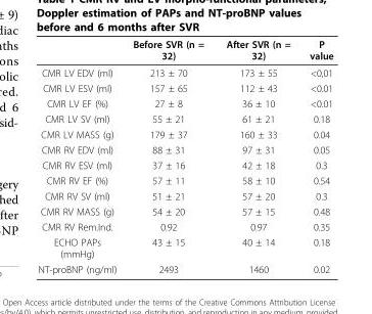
<table><thead><tr><td></td><td>Before SVR (n = 32)</td><td>After SVR (n = 32)</td><td>P value</td></tr></thead><tbody><tr><td>CMR LV EDV (ml)</td><td>213 ± 70</td><td>173 ± 55</td><td>&lt;0,01</td></tr><tr><td>CMR LV ESV (ml)</td><td>157 ± 65</td><td>112 ± 43</td><td>&lt;0.01</td></tr><tr><td>CMR LV EF (%)</td><td>27 ± 8</td><td>36 ± 10</td><td>&lt;0.01</td></tr><tr><td>CMR LV SV (ml)</td><td>55 ± 21</td><td>61 ± 21</td><td>0.18</td></tr><tr><td>CMR LV MASS (g)</td><td>179 ± 37</td><td>160 ± 33</td><td>0.04</td></tr><tr><td>CMR RV EDV (ml)</td><td>88 ± 31</td><td>97 ± 31</td><td>0.05</td></tr><tr><td>CMR RV ESV (ml)</td><td>37 ± 16</td><td>42 ± 18</td><td>0.3</td></tr><tr><td>CMR RV EF (%)</td><td>57 ± 11</td><td>58 ± 10</td><td>0.54</td></tr><tr><td>CMR RV SV (ml)</td><td>51 ± 21</td><td>57 ± 20</td><td>0.3</td></tr><tr><td>CMR RV MASS (g)</td><td>54 ± 20</td><td>57 ± 15</td><td>0.48</td></tr><tr><td>CMR RV Rem.Ind.</td><td>0.92</td><td>0.97</td><td>0.35</td></tr><tr><td>ECHO PAPs (mmHg)</td><td>43 ± 15</td><td>40 ± 14</td><td>0.18</td></tr><tr><td>NT-proBNP (ng/ml)</td><td>2493</td><td>1460</td><td>0.02</td></tr></tbody></table>